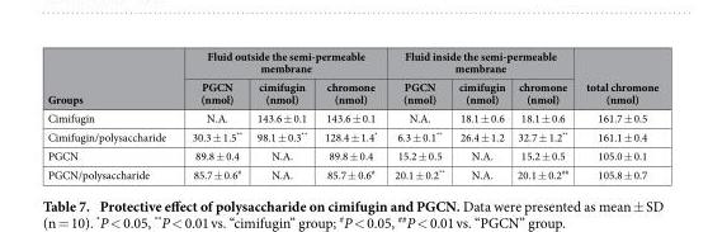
<table><thead><tr><td rowspan="2">Groups</td><td colspan="3">Fluid outside the semi-permeable membrane</td><td colspan="3">Fluid inside the semi-permeable membrane</td><td rowspan="2">total chromone (nmol)</td></tr><tr><td>PGCN (nmol)</td><td>cimifugin (nmol)</td><td>chromone (nmol)</td><td>PGCN (nmol)</td><td>cimifugin (nmol)</td><td>chromone (nmol)</td></tr></thead><tbody><tr><td>Cimifugin</td><td>N.A.</td><td>143.6 ± 0.1</td><td>143.6 ± 0.1</td><td>N.A.</td><td>18.1 ± 0.6</td><td>18.1 ± 0.6</td><td>161.7 ± 0.5</td></tr><tr><td>Cimifugin/polysaccharide</td><td>30.3 ± 1.5**</td><td>98.1 ± 0.3**</td><td>128.4 ± 1.4*</td><td>6.3 ± 0.1**</td><td>26.4 ± 1.2</td><td>32.7 ± 1.2**</td><td>161.1 ± 0.4</td></tr><tr><td>PGCN</td><td>89.8 ± 0.4</td><td>N.A.</td><td>89.8 ± 0.4</td><td>15.2 ± 0.5</td><td>N.A.</td><td>15.2 ± 0.5</td><td>105.0 ± 0.1</td></tr><tr><td>PGCN/polysaccharide</td><td>85.7 ± 0.6#</td><td>N.A.</td><td>85.7 ± 0.6#</td><td>20.1 ± 0.2**</td><td>N.A.</td><td>20.1 ± 0.2##</td><td>105.8 ± 0.7</td></tr></tbody></table>